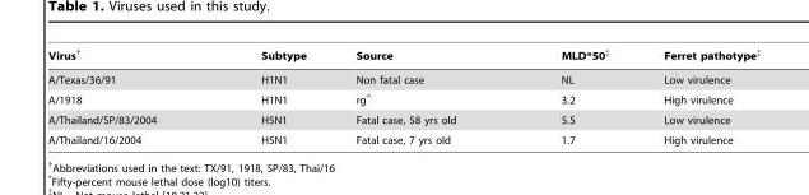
<table><thead><tr><td>Virus†</td><td>Subtype</td><td>Source</td><td>MLD*50‡</td><td>Ferret pathotype‡</td></tr></thead><tbody><tr><td>A/Texas/36/91</td><td>H1N1</td><td>Non fatal case</td><td>NL</td><td>Low virulence</td></tr><tr><td>A/1918</td><td>H1N1</td><td>rg^</td><td>3.2</td><td>High virulence</td></tr><tr><td>A/Thailand/SP/83/2004</td><td>H5N1</td><td>Fatal case, 58 yrs old</td><td>5.5</td><td>Low virulence</td></tr><tr><td>A/Thailand/16/2004</td><td>H5N1</td><td>Fatal case, 7 yrs old</td><td>1.7</td><td>High virulence</td></tr></tbody></table>